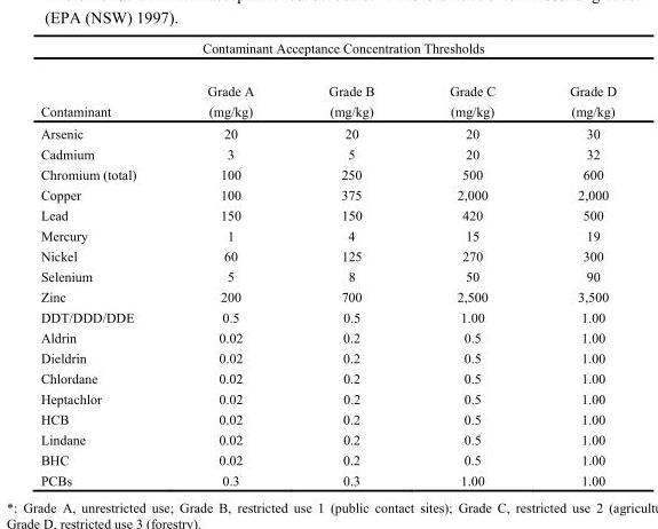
<table><thead><tr><td colspan="5">Contaminant Acceptance Concentration Thresholds</td></tr><tr><td>Contaminant</td><td>Grade A (mg/kg)</td><td>Grade B (mg/kg)</td><td>Grade C (mg/kg)</td><td>Grade D (mg/kg)</td></tr></thead><tbody><tr><td>Arsenic</td><td>20</td><td>20</td><td>20</td><td>30</td></tr><tr><td>Cadmium</td><td>3</td><td>5</td><td>20</td><td>32</td></tr><tr><td>Chromium (total)</td><td>100</td><td>250</td><td>500</td><td>600</td></tr><tr><td>Copper</td><td>100</td><td>375</td><td>2,000</td><td>2,000</td></tr><tr><td>Lead</td><td>150</td><td>150</td><td>420</td><td>500</td></tr><tr><td>Mercury</td><td>1</td><td>4</td><td>15</td><td>19</td></tr><tr><td>Nickel</td><td>60</td><td>125</td><td>270</td><td>300</td></tr><tr><td>Selenium</td><td>5</td><td>8</td><td>50</td><td>90</td></tr><tr><td>Zinc</td><td>200</td><td>700</td><td>2,500</td><td>3,500</td></tr><tr><td>DDT/DDD/DDE</td><td>0.5</td><td>0.5</td><td>1.00</td><td>1.00</td></tr><tr><td>Aldrin</td><td>0.02</td><td>0.2</td><td>0.5</td><td>1.00</td></tr><tr><td>Dieldrin</td><td>0.02</td><td>0.2</td><td>0.5</td><td>1.00</td></tr><tr><td>Chlordane</td><td>0.02</td><td>0.2</td><td>0.5</td><td>1.00</td></tr><tr><td>Heptachlor</td><td>0.02</td><td>0.2</td><td>0.5</td><td>1.00</td></tr><tr><td>HCB</td><td>0.02</td><td>0.2</td><td>0.5</td><td>1.00</td></tr><tr><td>Lindane</td><td>0.02</td><td>0.2</td><td>0.5</td><td>1.00</td></tr><tr><td>BHC</td><td>0.02</td><td>0.2</td><td>0.5</td><td>1.00</td></tr><tr><td>PCBs</td><td>0.3</td><td>0.3</td><td>1.00</td><td>1.00</td></tr></tbody></table>